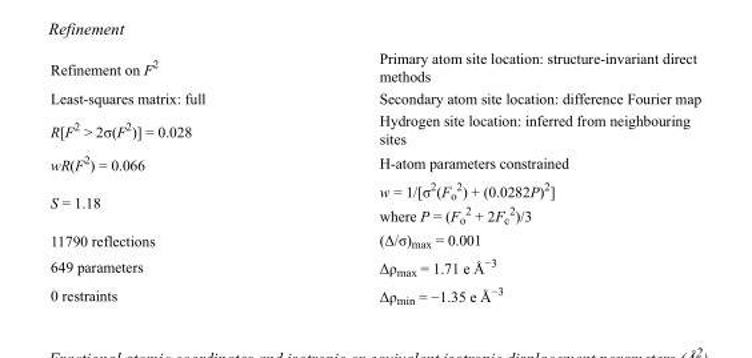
<table><tbody><tr><td>Refinement on F<sup>2</sup></td><td>Primary atom site location: structure-invariant direct methods</td></tr><tr><td>Least-squares matrix: full</td><td>Secondary atom site location: difference Fourier map</td></tr><tr><td>R[F<sup>2</sup> &gt; 2σ(F<sup>2</sup>)] = 0.028</td><td>Hydrogen site location: inferred from neighbouring sites</td></tr><tr><td>wR(F<sup>2</sup>) = 0.066</td><td>H-atom parameters constrained</td></tr><tr><td>S = 1.18</td><td>w = 1/[σ<sup>2</sup>(F<sub>o</sub> <sup>2</sup>) + (0.0282P)<sup>2</sup>] where P = (F<sub>o</sub> <sup>2</sup> + 2F<sub>c</sub> <sup>2</sup>)/3</td></tr><tr><td>11790 reflections</td><td>(Δ/σ)<sub>max</sub> = 0.001</td></tr><tr><td>649 parameters</td><td>Δρ<sub>max</sub> = 1.71 e Å<sup>−3</sup></td></tr><tr><td>0 restraints</td><td>Δρ<sub>min</sub> = −1.35 e Å<sup>−3</sup></td></tr></tbody></table>